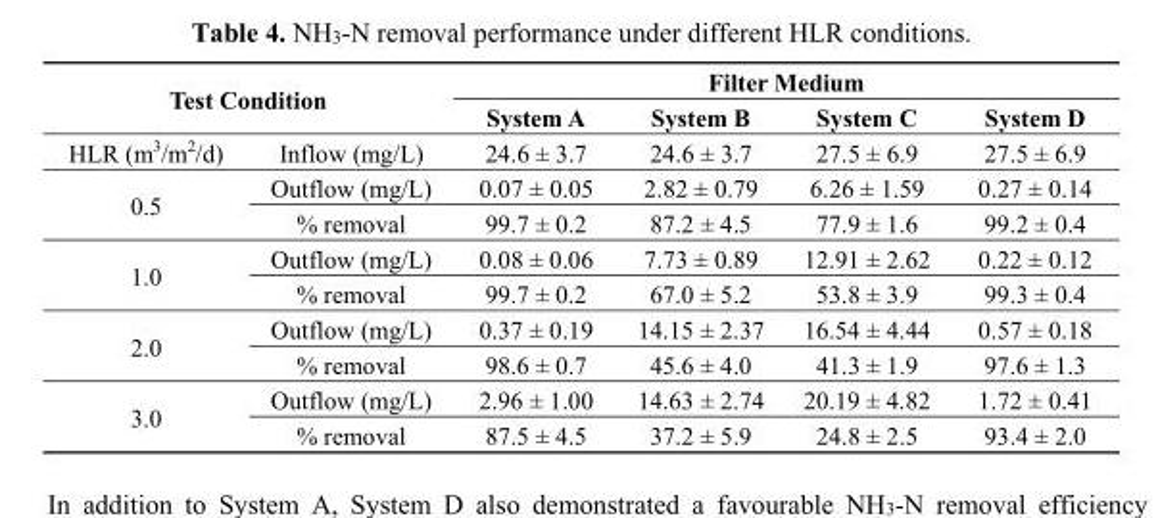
<table><thead><tr><td rowspan="2" colspan="2">Test Condition</td><td colspan="4">Filter Medium</td></tr><tr><td rowspan="2">System A 24.6 ± 3.7</td><td rowspan="2">System B 24.6 ± 3.7</td><td rowspan="2">System C 27.5 ± 6.9</td><td rowspan="2">System D 27.5 ± 6.9</td></tr><tr><td>HLR (m<sup>3</sup>/m<sup>2</sup>/d)</td><td>Inflow (mg/L)</td></tr></thead><tbody><tr><td rowspan="2">0.5</td><td>Outflow (mg/L)</td><td>0.07 ± 0.05</td><td>2.82 ± 0.79</td><td>6.26 ± 1.59</td><td>0.27 ± 0.14</td></tr><tr><td>% removal</td><td>99.7 ± 0.2</td><td>87.2 ± 4.5</td><td>77.9 ± 1.6</td><td>99.2 ± 0.4</td></tr><tr><td rowspan="2">1.0</td><td>Outflow (mg/L)</td><td>0.08 ± 0.06</td><td>7.73 ± 0.89</td><td>12.91 ± 2.62</td><td>0.22 ± 0.12</td></tr><tr><td>% removal</td><td>99.7 ± 0.2</td><td>67.0 ± 5.2</td><td>53.8 ± 3.9</td><td>99.3 ± 0.4</td></tr><tr><td rowspan="2">2.0</td><td>Outflow (mg/L)</td><td>0.37 ± 0.19</td><td>14.15 ± 2.37</td><td>16.54 ± 4.44</td><td>0.57 ± 0.18</td></tr><tr><td>% removal</td><td>98.6 ± 0.7</td><td>45.6 ± 4.0</td><td>41.3 ± 1.9</td><td>97.6 ± 1.3</td></tr><tr><td rowspan="2">3.0</td><td>Outflow (mg/L)</td><td>2.96 ± 1.00</td><td>14.63 ± 2.74</td><td>20.19 ± 4.82</td><td>1.72 ± 0.41</td></tr><tr><td>% removal</td><td>87.5 ± 4.5</td><td>37.2 ± 5.9</td><td>24.8 ± 2.5</td><td>93.4 ± 2.0</td></tr></tbody></table>